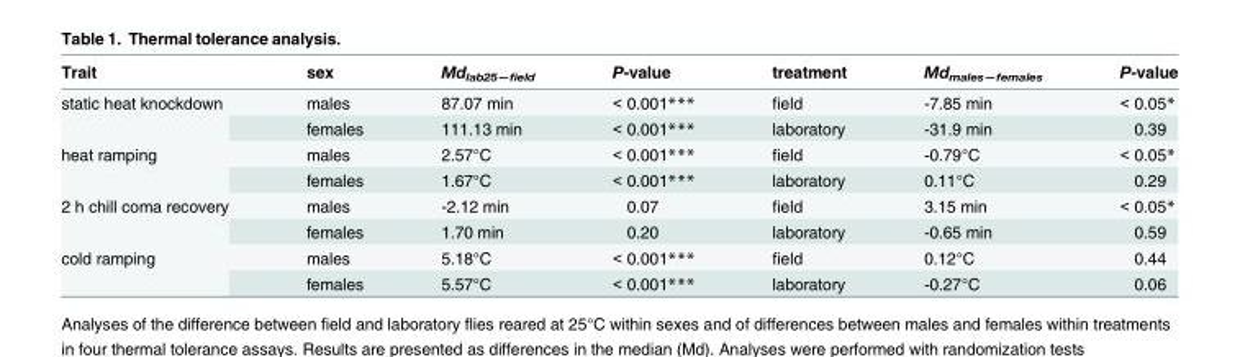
<table><thead><tr><td>Trait</td><td>sex</td><td>Md<sub>lab25—field</sub></td><td>P-value</td><td>treatment</td><td>Md<sub>males—females</sub></td><td>P-value</td></tr></thead><tbody><tr><td rowspan="2">static heat knockdown</td><td>males</td><td>87.07 min</td><td>&lt; 0.001***</td><td>field</td><td>-7.85 min</td><td>&lt; 0.05*</td></tr><tr><td>females</td><td>111.13 min</td><td>&lt; 0.001***</td><td>laboratory</td><td>-31.9 min</td><td>0.39</td></tr><tr><td rowspan="2">heat ramping</td><td>males</td><td>2.57°C</td><td>&lt; 0.001***</td><td>field</td><td>-0.79°C</td><td>&lt; 0.05*</td></tr><tr><td>females</td><td>1.67°C</td><td>&lt; 0.001***</td><td>laboratory</td><td>0.11°C</td><td>0.29</td></tr><tr><td rowspan="2">2 h chill coma recovery</td><td>males</td><td>-2.12 min</td><td>0.07</td><td>field</td><td>3.15 min</td><td>&lt; 0.05*</td></tr><tr><td>females</td><td>1.70 min</td><td>0.20</td><td>laboratory</td><td>-0.65 min</td><td>0.59</td></tr><tr><td rowspan="2">cold ramping</td><td>males</td><td>5.18°C</td><td>&lt; 0.001***</td><td>field</td><td>0.12°C</td><td>0.44</td></tr><tr><td>females</td><td>5.57°C</td><td>&lt; 0.001***</td><td>laboratory</td><td>-0.27°C</td><td>0.06</td></tr></tbody></table>